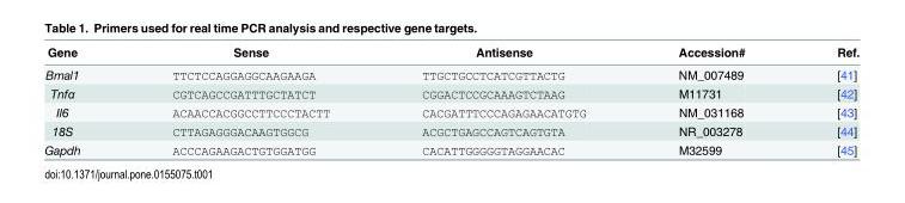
<table><thead><tr><td>Gene</td><td>Sense</td><td>Antisense</td><td>Accession#</td><td>Ref.</td></tr></thead><tbody><tr><td>Bmal1</td><td>TTCTCCAGGAGGCAAGAAGA</td><td>TTGCTGCCTCATCGTTACTG</td><td>NM_007489</td><td>[41]</td></tr><tr><td>Tnfα</td><td>CGTCAGCCGATTTGCTATCT</td><td>CGGACTCCGCAAAGTCTAAG</td><td>M11731</td><td>[42]</td></tr><tr><td>Il6</td><td>ACAACCACGGCCTTCCCTACTT</td><td>CACGATTTCCCAGAGAACATGTG</td><td>NM_031168</td><td>[43]</td></tr><tr><td>18S</td><td>CTTAGAGGGACAAGTGGCG</td><td>ACGCTGAGCCAGTCAGTGTA</td><td>NR_003278</td><td>[44]</td></tr><tr><td>Gapdh</td><td>ACCCAGAAGACTGTGGATGG</td><td>CACATTGGGGGTAGGAACAC</td><td>M32599</td><td>[45]</td></tr></tbody></table>